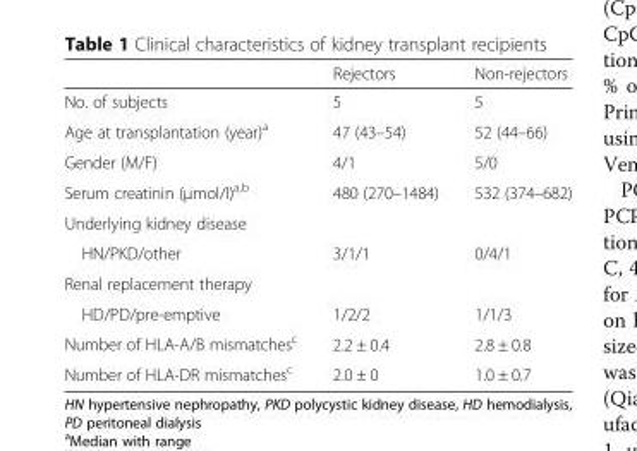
<table><thead><tr><td></td><td>Rejectors</td><td>Non-rejectors</td></tr></thead><tbody><tr><td>No. of subjects</td><td>5</td><td>5</td></tr><tr><td>Age at transplantation (year)<sup>a</sup></td><td>47 (43–54)</td><td>52 (44–66)</td></tr><tr><td>Gender (M/F)</td><td>4/1</td><td>5/0</td></tr><tr><td>Serum creatinin (μmol/l)<sup>a,b</sup></td><td>480 (270–1484)</td><td>532 (374–682)</td></tr><tr><td colspan="3">Underlying kidney disease</td></tr><tr><td>HN/PKD/other</td><td>3/1/1</td><td>0/4/1</td></tr><tr><td colspan="3">Renal replacement therapy</td></tr><tr><td>HD/PD/pre-emptive</td><td>1/2/2</td><td>1/1/3</td></tr><tr><td>Number of HLA-A/B mismatches<sup>c</sup></td><td>2.2 ± 0.4</td><td>2.8 ± 0.8</td></tr><tr><td>Number of HLA-DR mismatches<sup>c</sup></td><td>2.0 ± 0</td><td>1.0 ± 0.7</td></tr></tbody></table>